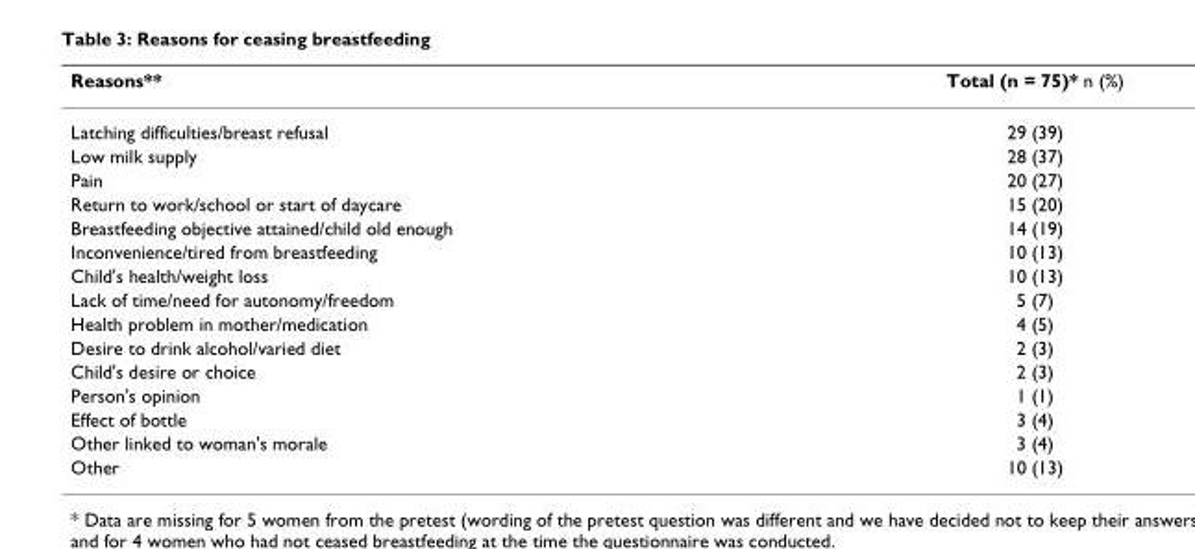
<table><thead><tr><td>Reasons**</td><td>Total (n = 75)* n (%)</td></tr></thead><tbody><tr><td>Latching difficulties/breast refusal</td><td>29 (39)</td></tr><tr><td>Low milk supply</td><td>28 (37)</td></tr><tr><td>Pain</td><td>20 (27)</td></tr><tr><td>Return to work/school or start of daycare</td><td>15 (20)</td></tr><tr><td>Breastfeeding objective attained/child old enough</td><td>14 (19)</td></tr><tr><td>Inconvenience/tired from breastfeeding</td><td>10 (13)</td></tr><tr><td>Child&#x27;s health/weight loss</td><td>10 (13)</td></tr><tr><td>Lack of time/need for autonomy/freedom</td><td>5 (7)</td></tr><tr><td>Health problem in mother/medication</td><td>4 (5)</td></tr><tr><td>Desire to drink alcohol/varied diet</td><td>2 (3)</td></tr><tr><td>Child&#x27;s desire or choice</td><td>2 (3)</td></tr><tr><td>Person&#x27;s opinion</td><td>1 (1)</td></tr><tr><td>Effect of bottle</td><td>3 (4)</td></tr><tr><td>Other linked to woman&#x27;s morale</td><td>3 (4)</td></tr><tr><td>Other</td><td>10 (13)</td></tr></tbody></table>